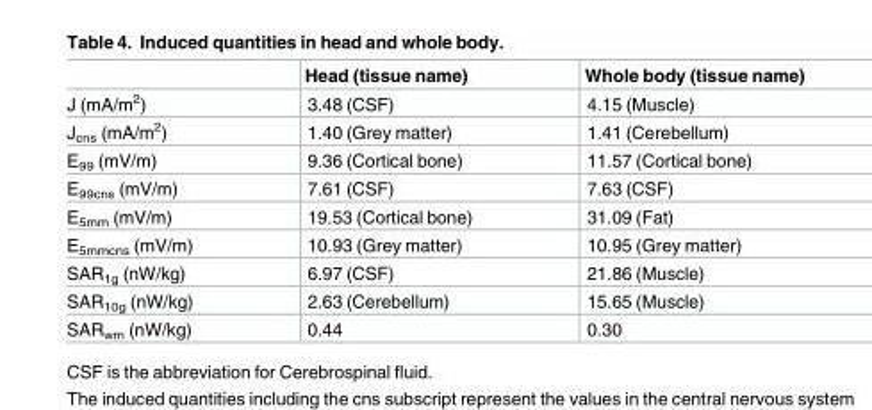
<table><thead><tr><td></td><td>Head (tissue name)</td><td>Whole body (tissue name)</td></tr></thead><tbody><tr><td>J (mA/m<sup>2</sup>)</td><td>3.48 (CSF)</td><td>4.15 (Muscle)</td></tr><tr><td>J<sub>cns</sub> (mA/m<sup>2</sup>)</td><td>1.40 (Grey matter)</td><td>1.41 (Cerebellum)</td></tr><tr><td>E<sub>99</sub> (mV/m)</td><td>9.36 (Cortical bone)</td><td>11.57 (Cortical bone)</td></tr><tr><td>E<sub>99cns</sub> (mV/m)</td><td>7.61 (CSF)</td><td>7.63 (CSF)</td></tr><tr><td>E<sub>5mm</sub> (mV/m)</td><td>19.53 (Cortical bone)</td><td>31.09 (Fat)</td></tr><tr><td>E<sub>5mmcns</sub> (mV/m)</td><td>10.93 (Grey matter)</td><td>10.95 (Grey matter)</td></tr><tr><td>SAR<sub>1g</sub> (nW/kg)</td><td>6.97 (CSF)</td><td>21.86 (Muscle)</td></tr><tr><td>SAR<sub>10g</sub> (nW/kg)</td><td>2.63 (Cerebellum)</td><td>15.65 (Muscle)</td></tr><tr><td>SAR<sub>wm</sub> (nW/kg)</td><td>0.44</td><td>0.30</td></tr></tbody></table>